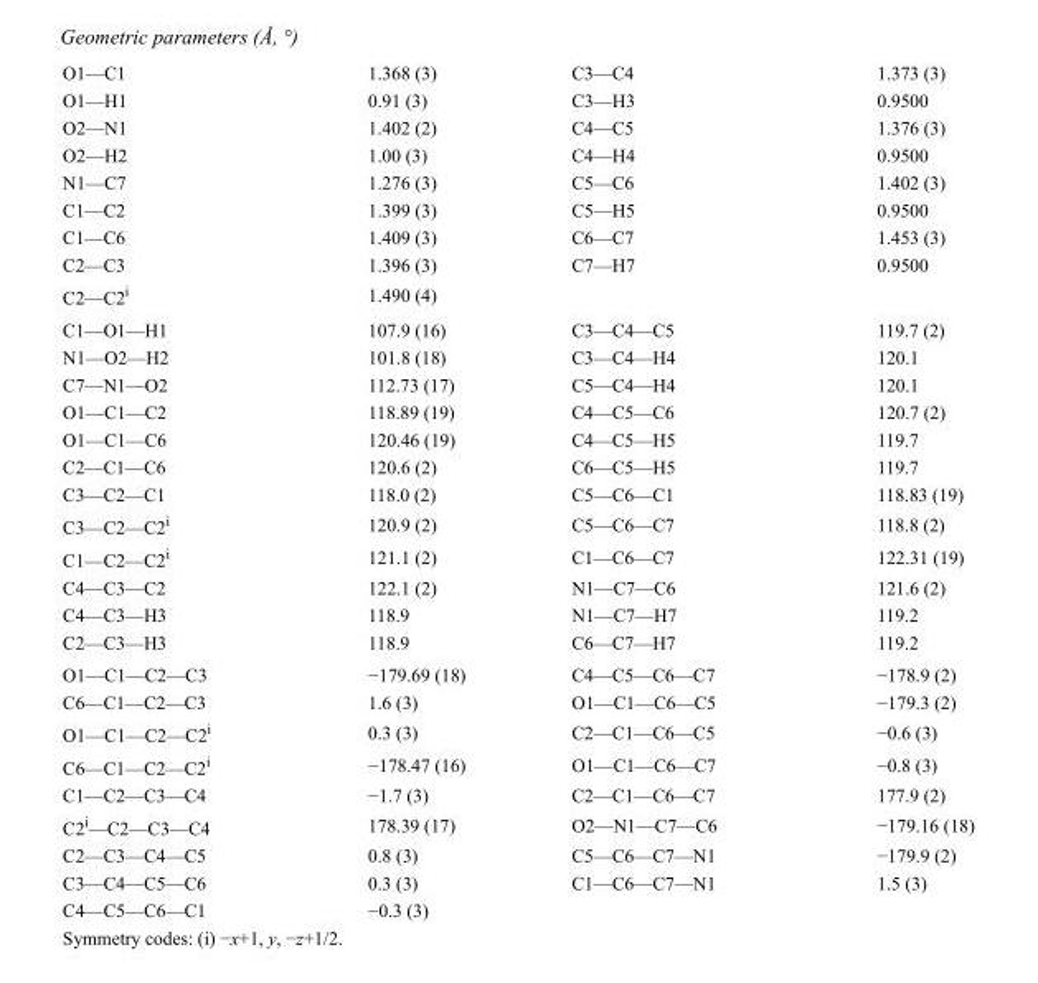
<table><tbody><tr><td>O1—C1</td><td>1.368 (3)</td><td>C3—C4</td><td>1.373 (3)</td></tr><tr><td>O1—H1</td><td>0.91 (3)</td><td>C3—H3</td><td>0.9500</td></tr><tr><td>O2—N1</td><td>1.402 (2)</td><td>C4—C5</td><td>1.376 (3)</td></tr><tr><td>O2—H2</td><td>1.00 (3)</td><td>C4—H4</td><td>0.9500</td></tr><tr><td>N1—C7</td><td>1.276 (3)</td><td>C5—C6</td><td>1.402 (3)</td></tr><tr><td>C1—C2</td><td>1.399 (3)</td><td>C5—H5</td><td>0.9500</td></tr><tr><td>C1—C6</td><td>1.409 (3)</td><td>C6—C7</td><td>1.453 (3)</td></tr><tr><td>C2—C3</td><td>1.396 (3)</td><td>C7—H7</td><td>0.9500</td></tr><tr><td>C2—C2<sup>i</sup></td><td>1.490 (4)</td><td></td><td></td></tr><tr><td>C1—O1—H1</td><td>107.9 (16)</td><td>C3—C4—C5</td><td>119.7 (2)</td></tr><tr><td>N1—O2—H2</td><td>101.8 (18)</td><td>C3—C4—H4</td><td>120.1</td></tr><tr><td>C7—N1—O2</td><td>112.73 (17)</td><td>C5—C4—H4</td><td>120.1</td></tr><tr><td>O1—C1—C2</td><td>118.89 (19)</td><td>C4—C5—C6</td><td>120.7 (2)</td></tr><tr><td>O1—C1—C6</td><td>120.46 (19)</td><td>C4—C5—H5</td><td>119.7</td></tr><tr><td>C2—C1—C6</td><td>120.6 (2)</td><td>C6—C5—H5</td><td>119.7</td></tr><tr><td>C3—C2—C1</td><td>118.0 (2)</td><td>C5—C6—C1</td><td>118.83 (19)</td></tr><tr><td>C3—C2—C2<sup>i</sup></td><td>120.9 (2)</td><td>C5—C6—C7</td><td>118.8 (2)</td></tr><tr><td>C1—C2—C2<sup>i</sup></td><td>121.1 (2)</td><td>C1—C6—C7</td><td>122.31 (19)</td></tr><tr><td>C4—C3—C2</td><td>122.1 (2)</td><td>N1—C7—C6</td><td>121.6 (2)</td></tr><tr><td>C4—C3—H3</td><td>118.9</td><td>N1—C7—H7</td><td>119.2</td></tr><tr><td>C2—C3—H3</td><td>118.9</td><td>C6—C7—H7</td><td>119.2</td></tr><tr><td>O1—C1—C2—C3</td><td>−179.69 (18)</td><td>C4—C5—C6—C7</td><td>−178.9 (2)</td></tr><tr><td>C6—C1—C2—C3</td><td>1.6 (3)</td><td>O1—C1—C6—C5</td><td>−179.3 (2)</td></tr><tr><td>O1—C1—C2—C2<sup>i</sup></td><td>0.3 (3)</td><td>C2—C1—C6—C5</td><td>−0.6 (3)</td></tr><tr><td>C6—C1—C2—C2<sup>i</sup></td><td>−178.47 (16)</td><td>O1—C1—C6—C7</td><td>−0.8 (3)</td></tr><tr><td>C1—C2—C3—C4</td><td>−1.7 (3)</td><td>C2—C1—C6—C7</td><td>177.9 (2)</td></tr><tr><td>C2<sup>i</sup>—C2—C3—C4</td><td>178.39 (17)</td><td>O2—N1—C7—C6</td><td>−179.16 (18)</td></tr><tr><td>C2—C3—C4—C5</td><td>0.8 (3)</td><td>C5—C6—C7—N1</td><td>−179.9 (2)</td></tr><tr><td>C3—C4—C5—C6</td><td>0.3 (3)</td><td>C1—C6—C7—N1</td><td>1.5 (3)</td></tr><tr><td>C4—C5—C6—C1</td><td>−0.3 (3)</td><td></td><td></td></tr></tbody></table>